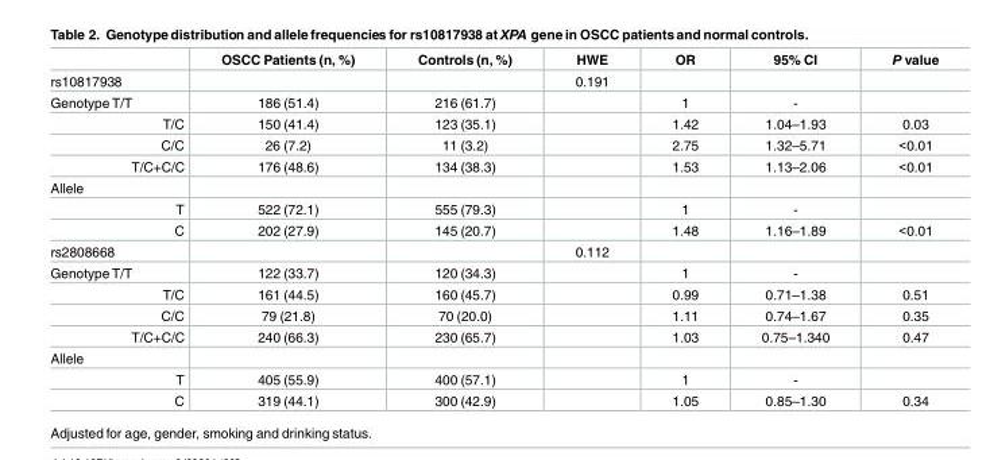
<table><thead><tr><td></td><td>OSCC Patients (n, %)</td><td>Controls (n, %)</td><td>HWE</td><td>OR</td><td>95% CI</td><td>P value</td></tr></thead><tbody><tr><td>rs10817938</td><td></td><td></td><td>0.191</td><td></td><td></td><td></td></tr><tr><td>Genotype T/T</td><td>186 (51.4)</td><td>216 (61.7)</td><td></td><td>1</td><td>-</td><td></td></tr><tr><td>T/C</td><td>150 (41.4)</td><td>123 (35.1)</td><td></td><td>1.42</td><td>1.04–1.93</td><td>0.03</td></tr><tr><td>C/C</td><td>26 (7.2)</td><td>11 (3.2)</td><td></td><td>2.75</td><td>1.32–5.71</td><td>&lt;0.01</td></tr><tr><td>T/C+C/C</td><td>176 (48.6)</td><td>134 (38.3)</td><td></td><td>1.53</td><td>1.13–2.06</td><td>&lt;0.01</td></tr><tr><td colspan="7">Allele</td></tr><tr><td>T</td><td>522 (72.1)</td><td>555 (79.3)</td><td></td><td>1</td><td>-</td><td></td></tr><tr><td>C</td><td>202 (27.9)</td><td>145 (20.7)</td><td></td><td>1.48</td><td>1.16–1.89</td><td>&lt;0.01</td></tr><tr><td>rs2808668</td><td></td><td></td><td>0.112</td><td></td><td></td><td></td></tr><tr><td>Genotype T/T</td><td>122 (33.7)</td><td>120 (34.3)</td><td></td><td>1</td><td>-</td><td></td></tr><tr><td>T/C</td><td>161 (44.5)</td><td>160 (45.7)</td><td></td><td>0.99</td><td>0.71–1.38</td><td>0.51</td></tr><tr><td>C/C</td><td>79 (21.8)</td><td>70 (20.0)</td><td></td><td>1.11</td><td>0.74–1.67</td><td>0.35</td></tr><tr><td>T/C+C/C</td><td>240 (66.3)</td><td>230 (65.7)</td><td></td><td>1.03</td><td>0.75–1.340</td><td>0.47</td></tr><tr><td colspan="7">Allele</td></tr><tr><td>T</td><td>405 (55.9)</td><td>400 (57.1)</td><td></td><td>1</td><td>-</td><td></td></tr><tr><td>C</td><td>319 (44.1)</td><td>300 (42.9)</td><td></td><td>1.05</td><td>0.85–1.30</td><td>0.34</td></tr></tbody></table>